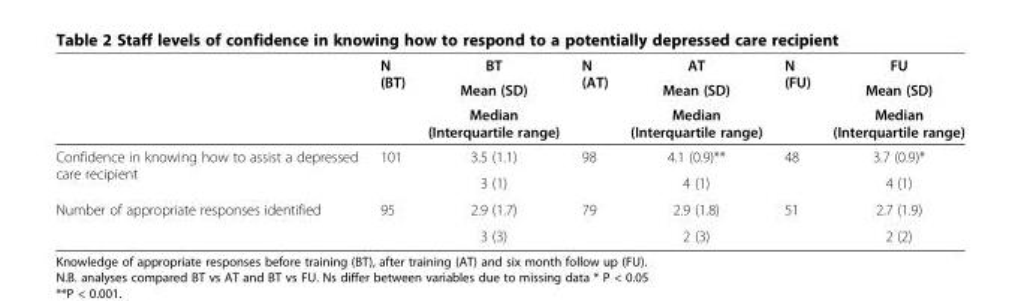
<table><thead><tr><td rowspan="3"></td><td rowspan="3">N (BT)</td><td rowspan="3">BT Mean (SD) Median (Interquartile range)</td><td rowspan="3">N (AT)</td><td rowspan="3">AT Mean (SD) Median (Interquartile range)</td><td rowspan="3">N (FU)</td><td rowspan="3">FU Mean (SD) Median (Interquartile range)</td></tr><tr></tr><tr></tr></thead><tbody><tr><td rowspan="2">Confidence in knowing how to assist a depressed care recipient</td><td rowspan="2">101</td><td>3.5 (1.1)</td><td rowspan="2">98</td><td>4.1 (0.9)**</td><td rowspan="2">48</td><td>3.7 (0.9)*</td></tr><tr><td>3 (1)</td><td>4 (1)</td><td>4 (1)</td></tr><tr><td rowspan="2">Number of appropriate responses identified</td><td rowspan="2">95</td><td>2.9 (1.7)</td><td rowspan="2">79</td><td>2.9 (1.8)</td><td rowspan="2">51</td><td>2.7 (1.9)</td></tr><tr><td>3 (3)</td><td>2 (3)</td><td>2 (2)</td></tr></tbody></table>